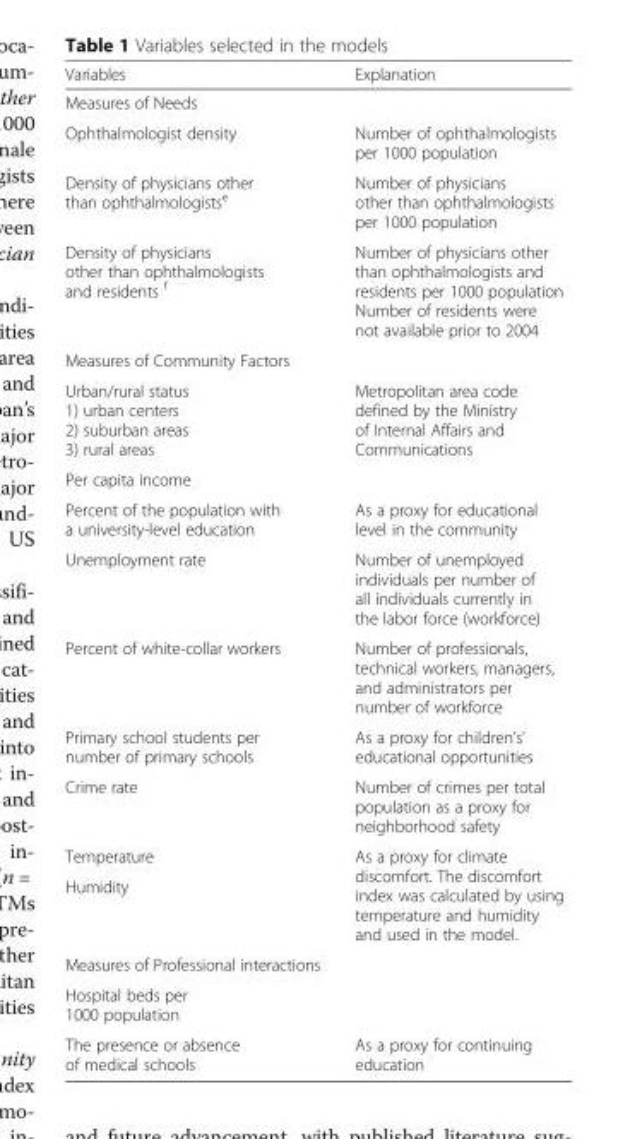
<table><thead><tr><td>Variables</td><td>Explanation</td></tr></thead><tbody><tr><td colspan="2">Measures of Needs</td></tr><tr><td>Ophthalmologist density</td><td>Number of ophthalmologists per 1000 population</td></tr><tr><td>Density of physicians other than ophthalmologists<sup>e</sup></td><td>Number of physicians other than ophthalmologists per 1000 population</td></tr><tr><td>Density of physicians other than ophthalmologists and residents <sup>f</sup></td><td>Number of physicians other than ophthalmologists and residents per 1000 population Number of residents were not available prior to 2004</td></tr><tr><td colspan="2">Measures of Community Factors</td></tr><tr><td>Urban/rural status 1) urban centers 2) suburban areas 3) rural areas</td><td>Metropolitan area code defined by the Ministry of Internal Affairs and Communications</td></tr><tr><td colspan="2">Per capita income</td></tr><tr><td>Percent of the population with a university-level education</td><td>As a proxy for educational level in the community</td></tr><tr><td>Unemployment rate</td><td>Number of unemployed individuals per number of all individuals currently in the labor force (workforce)</td></tr><tr><td>Percent of white-collar workers</td><td>Number of professionals, technical workers, managers, and administrators per number of workforce</td></tr><tr><td>Primary school students per number of primary schools</td><td>As a proxy for children’s’ educational opportunities</td></tr><tr><td>Crime rate</td><td>Number of crimes per total population as a proxy for neighborhood safety</td></tr><tr><td>Temperature</td><td rowspan="2">As a proxy for climate discomfort. The discomfort index was calculated by using temperature and humidity and used in the model.</td></tr><tr><td>Humidity</td></tr><tr><td colspan="2">Measures of Professional interactions</td></tr><tr><td colspan="2">Hospital beds per 1000 population</td></tr><tr><td>The presence or absence of medical schools</td><td>As a proxy for continuing education</td></tr></tbody></table>